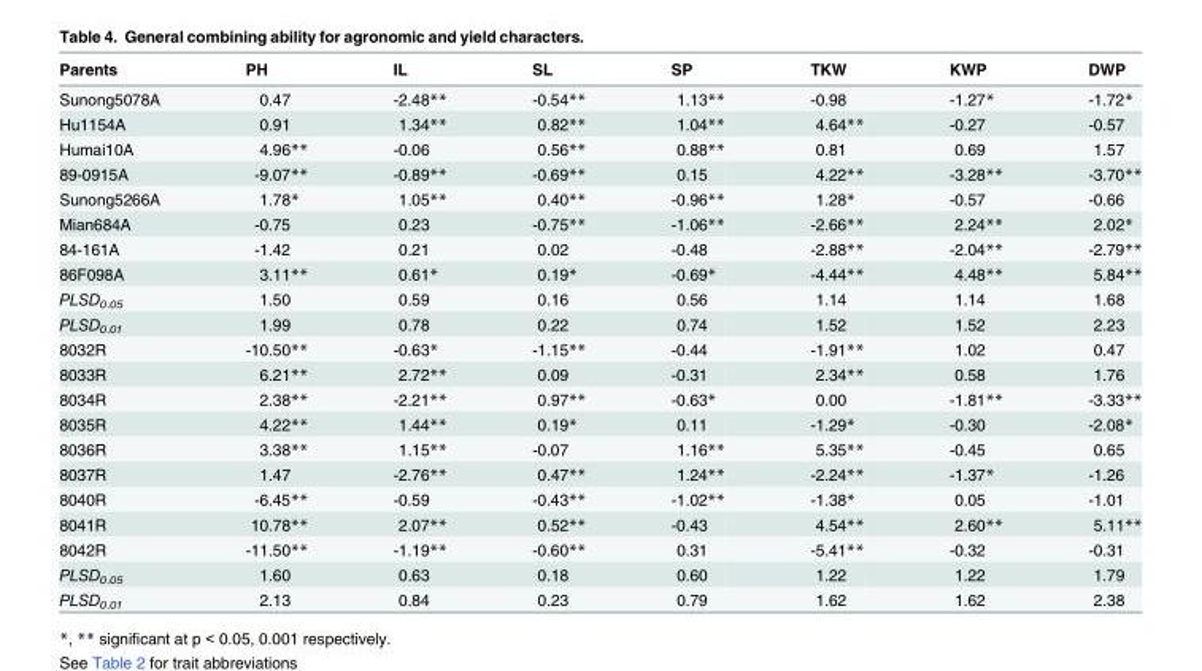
<table><thead><tr><td>Parents</td><td>PH</td><td>IL</td><td>SL</td><td>SP</td><td>TKW</td><td>KWP</td><td>DWP</td></tr></thead><tbody><tr><td>Sunong5078A</td><td>0.47</td><td>-2.48**</td><td>-0.54**</td><td>1.13**</td><td>-0.98</td><td>-1.27*</td><td>-1.72*</td></tr><tr><td>Hu1154A</td><td>0.91</td><td>1.34**</td><td>0.82**</td><td>1.04**</td><td>4.64**</td><td>-0.27</td><td>-0.57</td></tr><tr><td>Humai10A</td><td>4.96**</td><td>-0.06</td><td>0.56**</td><td>0.88**</td><td>0.81</td><td>0.69</td><td>1.57</td></tr><tr><td>89-0915A</td><td>-9.07**</td><td>-0.89**</td><td>-0.69**</td><td>0.15</td><td>4.22**</td><td>-3.28**</td><td>-3.70**</td></tr><tr><td>Sunong5266A</td><td>1.78*</td><td>1.05**</td><td>0.40**</td><td>-0.96**</td><td>1.28*</td><td>-0.57</td><td>-0.66</td></tr><tr><td>Mian684A</td><td>-0.75</td><td>0.23</td><td>-0.75**</td><td>-1.06**</td><td>-2.66**</td><td>2.24**</td><td>2.02*</td></tr><tr><td>84-161A</td><td>-1.42</td><td>0.21</td><td>0.02</td><td>-0.48</td><td>-2.88**</td><td>-2.04**</td><td>-2.79**</td></tr><tr><td>86F098A</td><td>3.11**</td><td>0.61*</td><td>0.19*</td><td>-0.69*</td><td>-4.44**</td><td>4.48**</td><td>5.84**</td></tr><tr><td>PLSD<sub>0.05</sub></td><td>1.50</td><td>0.59</td><td>0.16</td><td>0.56</td><td>1.14</td><td>1.14</td><td>1.68</td></tr><tr><td>PLSD<sub>0.01</sub></td><td>1.99</td><td>0.78</td><td>0.22</td><td>0.74</td><td>1.52</td><td>1.52</td><td>2.23</td></tr><tr><td>8032R</td><td>-10.50**</td><td>-0.63*</td><td>-1.15**</td><td>-0.44</td><td>-1.91**</td><td>1.02</td><td>0.47</td></tr><tr><td>8033R</td><td>6.21**</td><td>2.72**</td><td>0.09</td><td>-0.31</td><td>2.34**</td><td>0.58</td><td>1.76</td></tr><tr><td>8034R</td><td>2.38**</td><td>-2.21**</td><td>0.97**</td><td>-0.63*</td><td>0.00</td><td>-1.81**</td><td>-3.33**</td></tr><tr><td>8035R</td><td>4.22**</td><td>1.44**</td><td>0.19*</td><td>0.11</td><td>-1.29*</td><td>-0.30</td><td>-2.08*</td></tr><tr><td>8036R</td><td>3.38**</td><td>1.15**</td><td>-0.07</td><td>1.16**</td><td>5.35**</td><td>-0.45</td><td>0.65</td></tr><tr><td>8037R</td><td>1.47</td><td>-2.76**</td><td>0.47**</td><td>1.24**</td><td>-2.24**</td><td>-1.37*</td><td>-1.26</td></tr><tr><td>8040R</td><td>-6.45**</td><td>-0.59</td><td>-0.43**</td><td>-1.02**</td><td>-1.38*</td><td>0.05</td><td>-1.01</td></tr><tr><td>8041R</td><td>10.78**</td><td>2.07**</td><td>0.52**</td><td>-0.43</td><td>4.54**</td><td>2.60**</td><td>5.11**</td></tr><tr><td>8042R</td><td>-11.50**</td><td>-1.19**</td><td>-0.60**</td><td>0.31</td><td>-5.41**</td><td>-0.32</td><td>-0.31</td></tr><tr><td>PLSD<sub>0.05</sub></td><td>1.60</td><td>0.63</td><td>0.18</td><td>0.60</td><td>1.22</td><td>1.22</td><td>1.79</td></tr><tr><td>PLSD<sub>0.01</sub></td><td>2.13</td><td>0.84</td><td>0.23</td><td>0.79</td><td>1.62</td><td>1.62</td><td>2.38</td></tr></tbody></table>